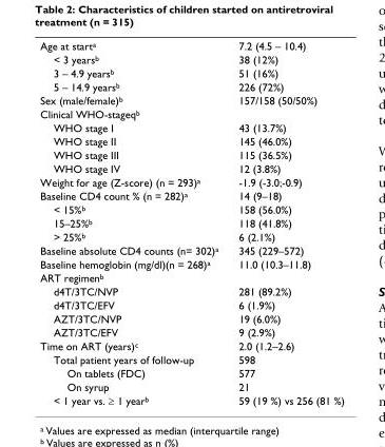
<table><tbody><tr><td>Age at start<sup>a</sup></td><td>7.2 (4.5 – 10.4)</td></tr><tr><td>&lt; 3 years<sup>b</sup></td><td>38 (12%)</td></tr><tr><td>3 – 4.9 years<sup>b</sup></td><td>51 (16%)</td></tr><tr><td>5 – 14.9 years<sup>b</sup></td><td>226 (72%)</td></tr><tr><td>Sex (male/female)<sup>b</sup></td><td>157/158 (50/50%)</td></tr><tr><td colspan="2">Clinical WHO-stageq<sup>b</sup></td></tr><tr><td>WHO stage I</td><td>43 (13.7%)</td></tr><tr><td>WHO stage II</td><td>145 (46.0%)</td></tr><tr><td>WHO stage III</td><td>115 (36.5%)</td></tr><tr><td>WHO stage IV</td><td>12 (3.8%)</td></tr><tr><td>Weight for age (Z-score) (n = 293)<sup>a</sup></td><td>-1.9 (-3.0;-0.9)</td></tr><tr><td>Baseline CD4 count % (n = 282)<sup>a</sup></td><td>14 (9–18)</td></tr><tr><td>&lt; 15%<sup>b</sup></td><td>158 (56.0%)</td></tr><tr><td>15–25%<sup>b</sup></td><td>118 (41.8%)</td></tr><tr><td>&gt; 25%<sup>b</sup></td><td>6 (2.1%)</td></tr><tr><td>Baseline absolute CD4 counts (n= 302)<sup>a</sup></td><td>345 (229–572)</td></tr><tr><td>Baseline hemoglobin (mg/dl)(n = 268)<sup>a</sup></td><td>11.0 (10.3–11.8)</td></tr><tr><td colspan="2">ART regimen<sup>b</sup></td></tr><tr><td>d4T/3TC/NVP</td><td>281 (89.2%)</td></tr><tr><td>d4T/3TC/EFV</td><td>6 (1.9%)</td></tr><tr><td>AZT/3TC/NVP</td><td>19 (6.0%)</td></tr><tr><td>AZT/3TC/EFV</td><td>9 (2.9%)</td></tr><tr><td>Time on ART (years)<sup>c</sup></td><td>2.0 (1.2–2.6)</td></tr><tr><td>Total patient years of follow-up</td><td>598</td></tr><tr><td>On tablets (FDC)</td><td>577</td></tr><tr><td>On syrup</td><td>21</td></tr><tr><td>&lt; 1 year vs. ≥ 1 year<sup>b</sup></td><td>59 (19 %) vs 256 (81 %)</td></tr></tbody></table>